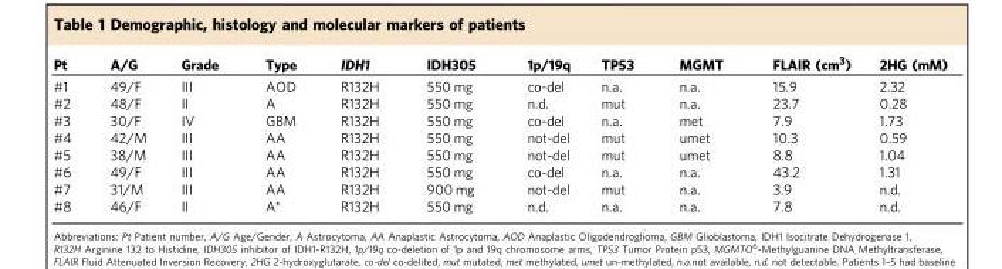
<table><thead><tr><td>Pt</td><td>A/G</td><td>Grade</td><td>Type</td><td>IDH1</td><td>IDH305</td><td>1p/19q</td><td>TP53</td><td>MGMT</td><td>FLAIR (cm<sup>3</sup>)</td><td>2HG (mM)</td></tr></thead><tbody><tr><td>#1</td><td>49/F</td><td>III</td><td>AOD</td><td>R132H</td><td>550 mg</td><td>co-del</td><td>n.a.</td><td>n.a.</td><td>15.9</td><td>2.32</td></tr><tr><td>#2</td><td>48/F</td><td>II</td><td>A</td><td>R132H</td><td>550 mg</td><td>n.d.</td><td>mut</td><td>n.a.</td><td>23.7</td><td>0.28</td></tr><tr><td>#3</td><td>30/F</td><td>IV</td><td>GBM</td><td>R132H</td><td>550 mg</td><td>co-del</td><td>n.a.</td><td>met</td><td>7.9</td><td>1.73</td></tr><tr><td>#4</td><td>42/M</td><td>III</td><td>AA</td><td>R132H</td><td>550 mg</td><td>not-del</td><td>mut</td><td>umet</td><td>10.3</td><td>0.59</td></tr><tr><td>#5</td><td>38/M</td><td>III</td><td>AA</td><td>R132H</td><td>550 mg</td><td>not-del</td><td>mut</td><td>umet</td><td>8.8</td><td>1.04</td></tr><tr><td>#6</td><td>49/F</td><td>III</td><td>AA</td><td>R132H</td><td>550 mg</td><td>co-del</td><td>n.a.</td><td>n.a.</td><td>43.2</td><td>1.31</td></tr><tr><td>#7</td><td>31/M</td><td>III</td><td>AA</td><td>R132H</td><td>900 mg</td><td>not-del</td><td>mut</td><td>n.a.</td><td>3.9</td><td>n.d.</td></tr><tr><td>#8</td><td>46/F</td><td>II</td><td>A*</td><td>R132H</td><td>550 mg</td><td>n.d.</td><td>n.a.</td><td>n.a.</td><td>7.8</td><td>n.d.</td></tr></tbody></table>